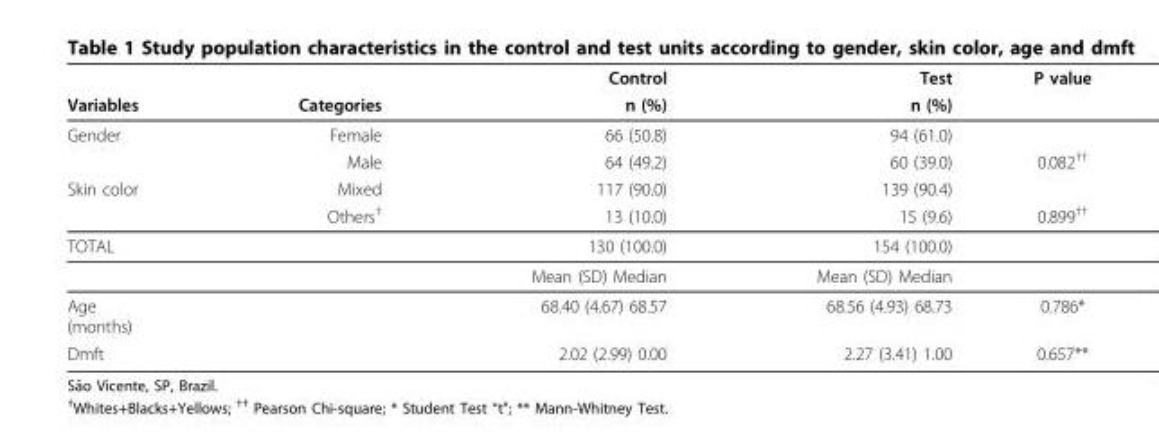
<table><thead><tr><td rowspan="2">Variables</td><td rowspan="2">Categories</td><td rowspan="2">Control n (%)</td><td rowspan="2">Test n (%)</td><td rowspan="2">P value</td></tr><tr></tr></thead><tbody><tr><td rowspan="2">Gender</td><td>Female</td><td>66 (50.8)</td><td>94 (61.0)</td><td></td></tr><tr><td>Male</td><td>64 (49.2)</td><td>60 (39.0)</td><td>0.082<sup>††</sup></td></tr><tr><td rowspan="2">Skin color</td><td>Mixed</td><td>117 (90.0)</td><td>139 (90.4)</td><td></td></tr><tr><td>Others<sup>†</sup></td><td>13 (10.0)</td><td>15 (9.6)</td><td>0.899<sup>††</sup></td></tr><tr><td rowspan="2">TOTAL</td><td></td><td>130 (100.0)</td><td>154 (100.0)</td><td></td></tr><tr><td></td><td>Mean (SD) Median</td><td>Mean (SD) Median</td><td></td></tr><tr><td>Age (months)</td><td></td><td>68.40 (4.67) 68.57</td><td>68.56 (4.93) 68.73</td><td>0.786*</td></tr><tr><td>Dmft</td><td></td><td>2.02 (2.99) 0.00</td><td>2.27 (3.41) 1.00</td><td>0.657**</td></tr></tbody></table>